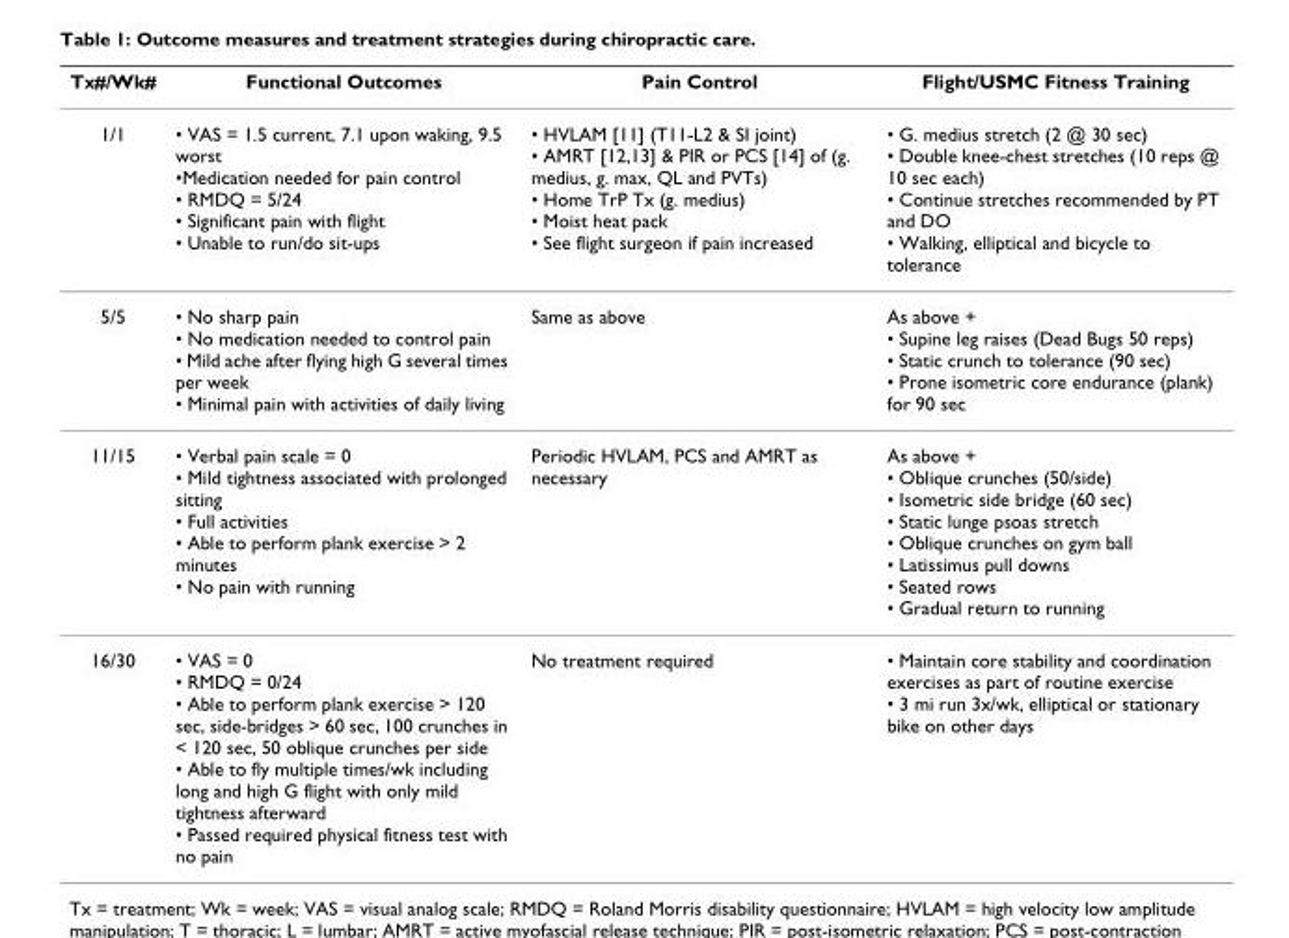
<table><thead><tr><td>Tx#/Wk#</td><td>Functional Outcomes</td><td>Pain Control</td><td>Flight/USMC Fitness Training</td></tr></thead><tbody><tr><td>1/1</td><td>• VAS = 1.5 current, 7.1 upon waking, 9.5 worst •Medication needed for pain control • RMDQ = 5/24 • Significant pain with flight • Unable to run/do sit-ups</td><td>• HVLAM [11] (T11-L2 &amp; SI joint) • AMRT [12,13] &amp; PIR or PCS [14] of (g. medius, g. max, QL and PVTs) • Home TrP Tx (g. medius) • Moist heat pack • See flight surgeon if pain increased</td><td>• G. medius stretch (2 @ 30 sec) • Double knee-chest stretches (10 reps @ 10 sec each) • Continue stretches recommended by PT and DO • Walking, elliptical and bicycle to tolerance</td></tr><tr><td>5/5</td><td>• No sharp pain • No medication needed to control pain • Mild ache after flying high G several times per week • Minimal pain with activities of daily living</td><td>Same as above</td><td>As above + • Supine leg raises (Dead Bugs 50 reps) • Static crunch to tolerance (90 sec) • Prone isometric core endurance (plank) for 90 sec</td></tr><tr><td>11/15</td><td>• Verbal pain scale = 0 • Mild tightness associated with prolonged sitting • Full activities • Able to perform plank exercise &gt; 2 minutes • No pain with running</td><td>Periodic HVLAM, PCS and AMRT as necessary</td><td>As above + • Oblique crunches (50/side) • Isometric side bridge (60 sec) • Static lunge psoas stretch • Oblique crunches on gym ball • Latissimus pull downs • Seated rows • Gradual return to running</td></tr><tr><td>16/30</td><td>• VAS = 0 • RMDQ = 0/24 • Able to perform plank exercise &gt; 120 sec, side-bridges &gt; 60 sec, 100 crunches in &lt; 120 sec, 50 oblique crunches per side • Able to fly multiple times/wk including long and high G flight with only mild tightness afterward • Passed required physical fitness test with no pain</td><td>No treatment required</td><td>• Maintain core stability and coordination exercises as part of routine exercise • 3 mi run 3x/wk, elliptical or stationary bike on other days</td></tr></tbody></table>